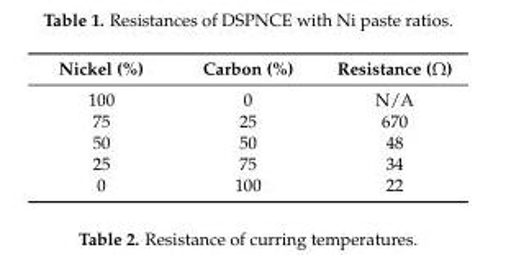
<table><thead><tr><td>Nickel (%)</td><td>Carbon (%)</td><td>Resistance (Ω)</td></tr></thead><tbody><tr><td>100</td><td>0</td><td>N/A</td></tr><tr><td>75</td><td>25</td><td>670</td></tr><tr><td>50</td><td>50</td><td>48</td></tr><tr><td>25</td><td>75</td><td>34</td></tr><tr><td>0</td><td>100</td><td>22</td></tr></tbody></table>